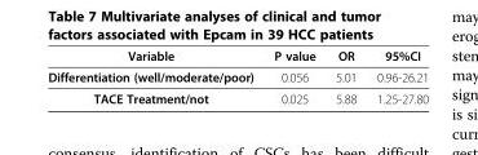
<table><thead><tr><td>Variable</td><td>P value</td><td>OR</td><td>95%CI</td></tr></thead><tbody><tr><td>Differentiation (well/moderate/poor)</td><td>0.056</td><td>5.01</td><td>0.96-26.21</td></tr><tr><td>TACE Treatment/not</td><td>0.025</td><td>5.88</td><td>1.25-27.80</td></tr></tbody></table>